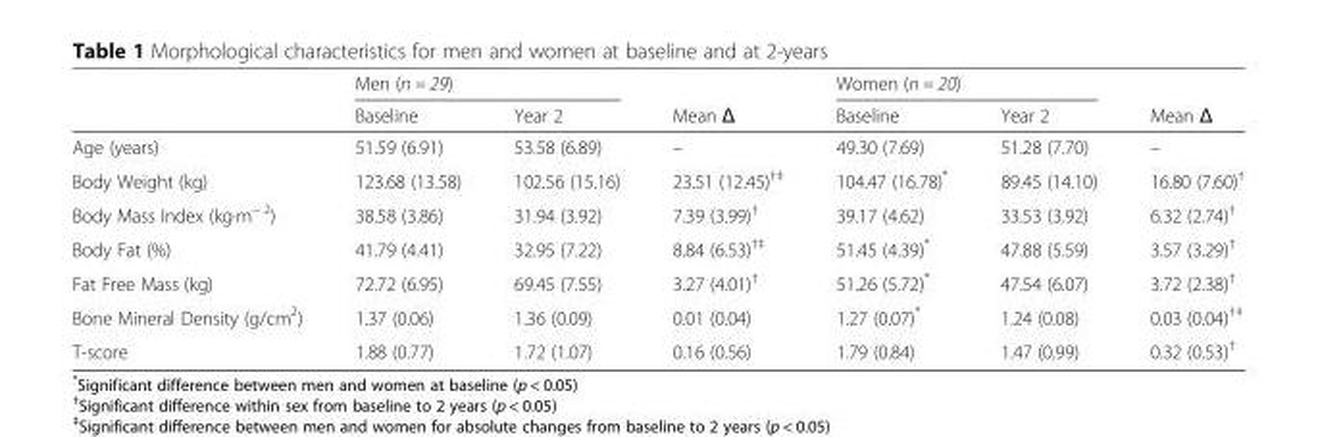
<table><thead><tr><td rowspan="2"></td><td colspan="2">Men (n = 29)</td><td rowspan="2">Mean Δ</td><td colspan="2">Women (n = 20)</td><td rowspan="2">Mean Δ</td></tr><tr><td>Baseline</td><td>Year 2</td><td>Baseline</td><td>Year 2</td></tr></thead><tbody><tr><td>Age (years)</td><td>51.59 (6.91)</td><td>53.58 (6.89)</td><td>–</td><td>49.30 (7.69)</td><td>51.28 (7.70)</td><td>–</td></tr><tr><td>Body Weight (kg)</td><td>123.68 (13.58)</td><td>102.56 (15.16)</td><td>23.51 (12.45)<sup>†‡</sup></td><td>104.47 (16.78)*</td><td>89.45 (14.10)</td><td>16.80 (7.60)<sup>†</sup></td></tr><tr><td>Body Mass Index (kg∙m<sup>− 2</sup>)</td><td>38.58 (3.86)</td><td>31.94 (3.92)</td><td>7.39 (3.99)<sup>†</sup></td><td>39.17 (4.62)</td><td>33.53 (3.92)</td><td>6.32 (2.74)<sup>†</sup></td></tr><tr><td>Body Fat (%)</td><td>41.79 (4.41)</td><td>32.95 (7.22)</td><td>8.84 (6.53)<sup>†‡</sup></td><td>51.45 (4.39)*</td><td>47.88 (5.59)</td><td>3.57 (3.29)<sup>†</sup></td></tr><tr><td>Fat Free Mass (kg)</td><td>72.72 (6.95)</td><td>69.45 (7.55)</td><td>3.27 (4.01)<sup>†</sup></td><td>51.26 (5.72)*</td><td>47.54 (6.07)</td><td>3.72 (2.38)<sup>†</sup></td></tr><tr><td>Bone Mineral Density (g/cm<sup>2</sup>)</td><td>1.37 (0.06)</td><td>1.36 (0.09)</td><td>0.01 (0.04)</td><td>1.27 (0.07)*</td><td>1.24 (0.08)</td><td>0.03 (0.04)<sup>†‡</sup></td></tr><tr><td>T-score</td><td>1.88 (0.77)</td><td>1.72 (1.07)</td><td>0.16 (0.56)</td><td>1.79 (0.84)</td><td>1.47 (0.99)</td><td>0.32 (0.53)<sup>†</sup></td></tr></tbody></table>